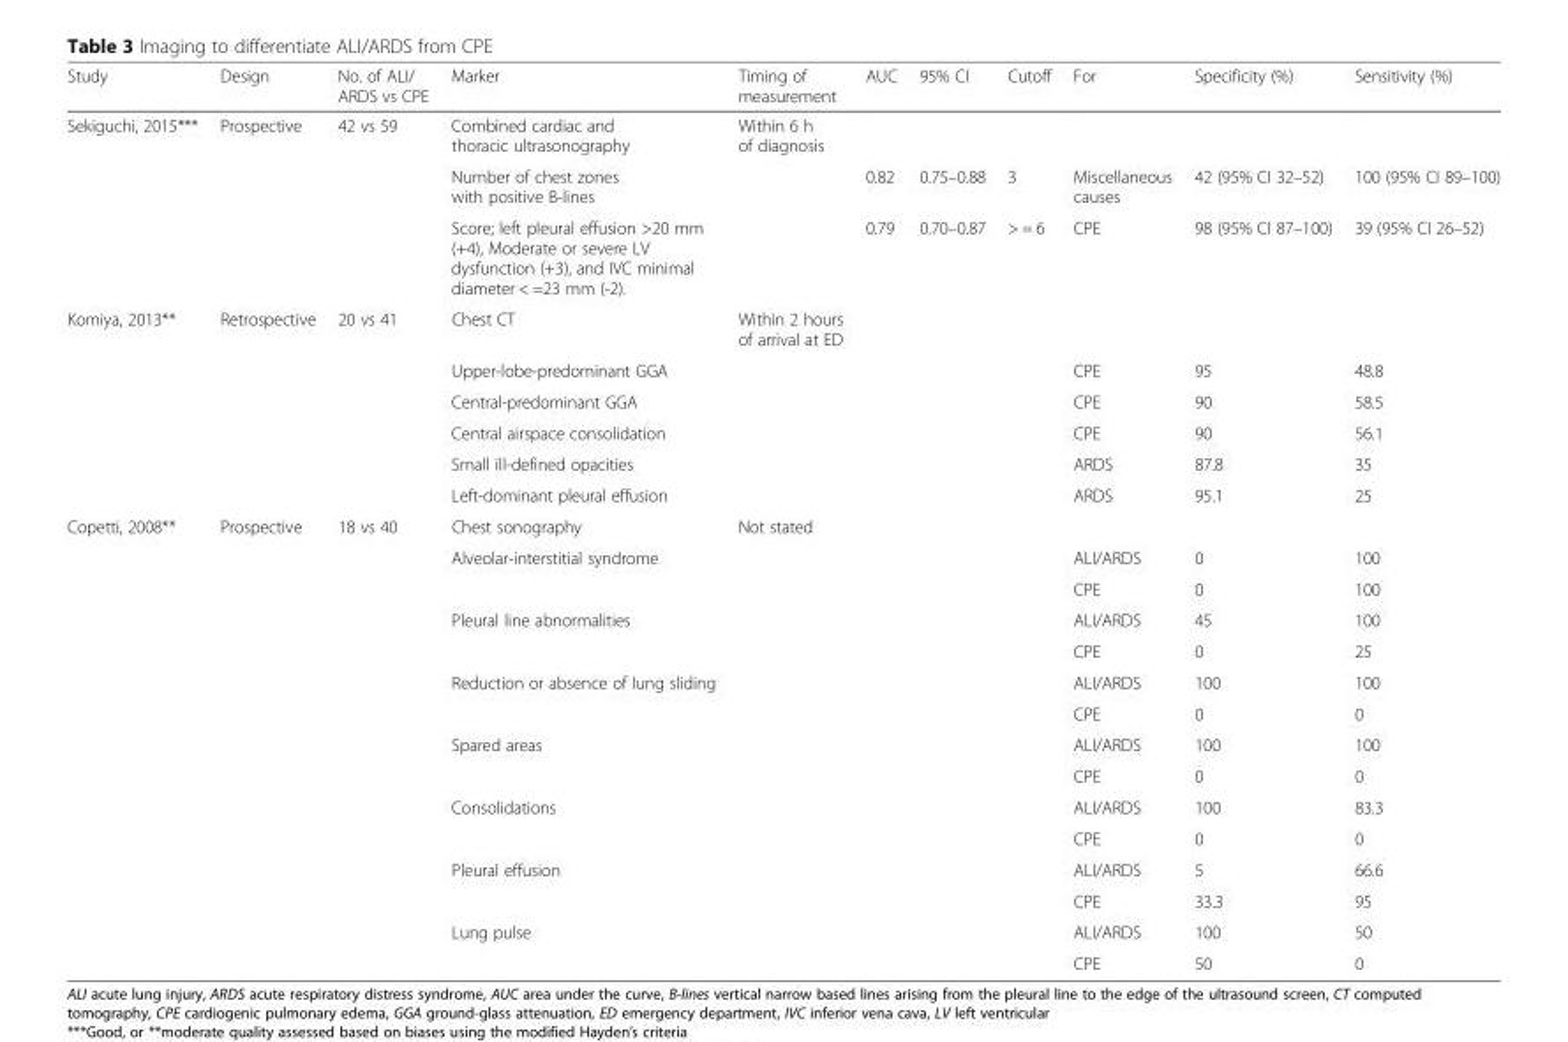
<table><thead><tr><td>Study</td><td>Design</td><td>No. of ALI/ ARDS vs CPE</td><td>Marker</td><td>Timing of measurement</td><td>AUC</td><td>95% CI</td><td>Cutoff</td><td>For</td><td>Specificity (%)</td><td>Sensitivity (%)</td></tr></thead><tbody><tr><td rowspan="3">Sekiguchi, 2015***</td><td>Prospective</td><td>42 vs 59</td><td>Combined cardiac and thoracic ultrasonography</td><td>Within 6 h of diagnosis</td><td></td><td></td><td></td><td></td><td></td><td></td></tr><tr><td></td><td></td><td>Number of chest zones with positive B-lines</td><td></td><td>0.82</td><td>0.75–0.88</td><td>3</td><td>Miscellaneous causes</td><td>42 (95% CI 32–52)</td><td>100 (95% CI 89–100)</td></tr><tr><td></td><td></td><td>Score; left pleural effusion &gt;20 mm (+4), Moderate or severe LV dysfunction (+3), and IVC minimal diameter &lt; =23 mm (-2).</td><td></td><td>0.79</td><td>0.70–0.87</td><td>&gt; = 6</td><td>CPE</td><td>98 (95% CI 87–100)</td><td>39 (95% CI 26–52)</td></tr><tr><td rowspan="6">Komiya, 2013**</td><td>Retrospective</td><td>20 vs 41</td><td>Chest CT</td><td>Within 2 hours of arrival at ED</td><td></td><td></td><td></td><td></td><td></td><td></td></tr><tr><td></td><td></td><td>Upper-lobe-predominant GGA</td><td></td><td></td><td></td><td></td><td>CPE</td><td>95</td><td>48.8</td></tr><tr><td></td><td></td><td>Central-predominant GGA</td><td></td><td></td><td></td><td></td><td>CPE</td><td>90</td><td>58.5</td></tr><tr><td></td><td></td><td>Central airspace consolidation</td><td></td><td></td><td></td><td></td><td>CPE</td><td>90</td><td>56.1</td></tr><tr><td></td><td></td><td>Small ill-defined opacities</td><td></td><td></td><td></td><td></td><td>ARDS</td><td>87.8</td><td>35</td></tr><tr><td></td><td></td><td>Left-dominant pleural effusion</td><td></td><td></td><td></td><td></td><td>ARDS</td><td>95.1</td><td>25</td></tr><tr><td rowspan="15">Copetti, 2008**</td><td>Prospective</td><td>18 vs 40</td><td>Chest sonography</td><td>Not stated</td><td></td><td></td><td></td><td></td><td></td><td></td></tr><tr><td></td><td></td><td>Alveolar-interstitial syndrome</td><td></td><td></td><td></td><td></td><td>ALI/ARDS</td><td>0</td><td>100</td></tr><tr><td></td><td></td><td></td><td></td><td></td><td></td><td></td><td>CPE</td><td>0</td><td>100</td></tr><tr><td></td><td></td><td>Pleural line abnormalities</td><td></td><td></td><td></td><td></td><td>ALI/ARDS</td><td>45</td><td>100</td></tr><tr><td></td><td></td><td></td><td></td><td></td><td></td><td></td><td>CPE</td><td>0</td><td>25</td></tr><tr><td></td><td></td><td>Reduction or absence of lung sliding</td><td></td><td></td><td></td><td></td><td>ALI/ARDS</td><td>100</td><td>100</td></tr><tr><td></td><td></td><td></td><td></td><td></td><td></td><td></td><td>CPE</td><td>0</td><td>0</td></tr><tr><td></td><td></td><td>Spared areas</td><td></td><td></td><td></td><td></td><td>ALI/ARDS</td><td>100</td><td>100</td></tr><tr><td></td><td></td><td></td><td></td><td></td><td></td><td></td><td>CPE</td><td>0</td><td>0</td></tr><tr><td></td><td></td><td>Consolidations</td><td></td><td></td><td></td><td></td><td>ALI/ARDS</td><td>100</td><td>83.3</td></tr><tr><td></td><td></td><td></td><td></td><td></td><td></td><td></td><td>CPE</td><td>0</td><td>0</td></tr><tr><td></td><td></td><td>Pleural effusion</td><td></td><td></td><td></td><td></td><td>ALI/ARDS</td><td>5</td><td>66.6</td></tr><tr><td></td><td></td><td></td><td></td><td></td><td></td><td></td><td>CPE</td><td>33.3</td><td>95</td></tr><tr><td></td><td></td><td>Lung pulse</td><td></td><td></td><td></td><td></td><td>ALI/ARDS</td><td>100</td><td>50</td></tr><tr><td></td><td></td><td></td><td></td><td></td><td></td><td></td><td>CPE</td><td>50</td><td>0</td></tr></tbody></table>